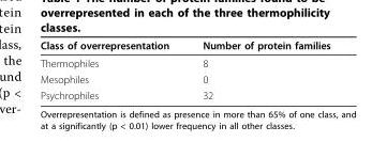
<table><thead><tr><td>Class of overrepresentation</td><td>Number of protein families</td></tr></thead><tbody><tr><td>Thermophiles</td><td>8</td></tr><tr><td>Mesophiles</td><td>0</td></tr><tr><td>Psychrophiles</td><td>32</td></tr></tbody></table>